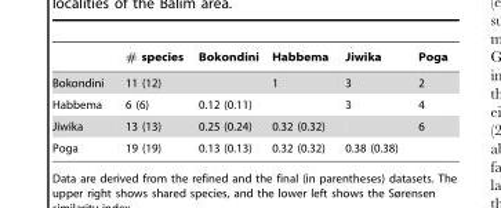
<table><thead><tr><td></td><td># species</td><td>Bokondini</td><td>Habbema</td><td>Jiwika</td><td>Poga</td></tr></thead><tbody><tr><td>Bokondini</td><td>11 (12)</td><td></td><td>1</td><td>3</td><td>2</td></tr><tr><td>Habbema</td><td>6 (6)</td><td>0.12 (0.11)</td><td></td><td>3</td><td>4</td></tr><tr><td>Jiwika</td><td>13 (13)</td><td>0.25 (0.24)</td><td>0.32 (0.32)</td><td></td><td>6</td></tr><tr><td>Poga</td><td>19 (19)</td><td>0.13 (0.13)</td><td>0.32 (0.32)</td><td>0.38 (0.38)</td><td></td></tr></tbody></table>